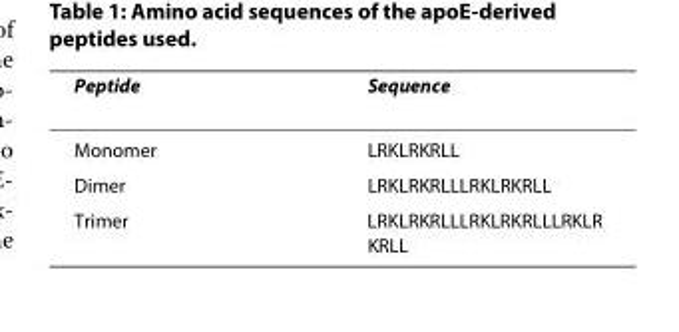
<table><thead><tr><td>Peptide</td><td>Sequence</td></tr></thead><tbody><tr><td>Monomer</td><td>LRKLRKRLL</td></tr><tr><td>Dimer</td><td>LRKLRKRLLLRKLRKRLL</td></tr><tr><td>Trimer</td><td>LRKLRKRLLLRKLRKRLLLRKLR KRLL</td></tr></tbody></table>